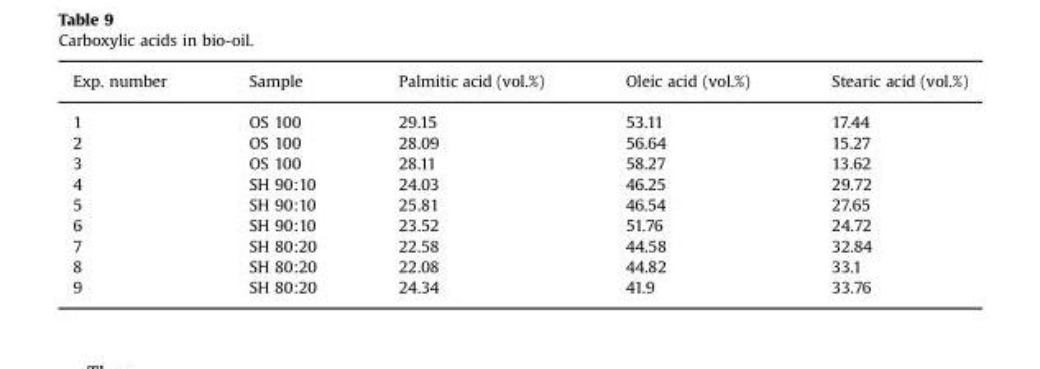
<table><thead><tr><td>Exp. number</td><td>Sample</td><td>Palmitic acid (vol.%)</td><td>Oleic acid (vol.%)</td><td>Stearic acid (vol.%)</td></tr></thead><tbody><tr><td>1</td><td>OS 100</td><td>29.15</td><td>53.11</td><td>17.44</td></tr><tr><td>2</td><td>OS 100</td><td>28.09</td><td>56.64</td><td>15.27</td></tr><tr><td>3</td><td>OS 100</td><td>28.11</td><td>58.27</td><td>13.62</td></tr><tr><td>4</td><td>SH 90:10</td><td>24.03</td><td>46.25</td><td>29.72</td></tr><tr><td>5</td><td>SH 90:10</td><td>25.81</td><td>46.54</td><td>27.65</td></tr><tr><td>6</td><td>SH 90:10</td><td>23.52</td><td>51.76</td><td>24.72</td></tr><tr><td>7</td><td>SH 80:20</td><td>22.58</td><td>44.58</td><td>32.84</td></tr><tr><td>8</td><td>SH 80:20</td><td>22.08</td><td>44.82</td><td>33.1</td></tr><tr><td>9</td><td>SH 80:20</td><td>24.34</td><td>41.9</td><td>33.76</td></tr></tbody></table>